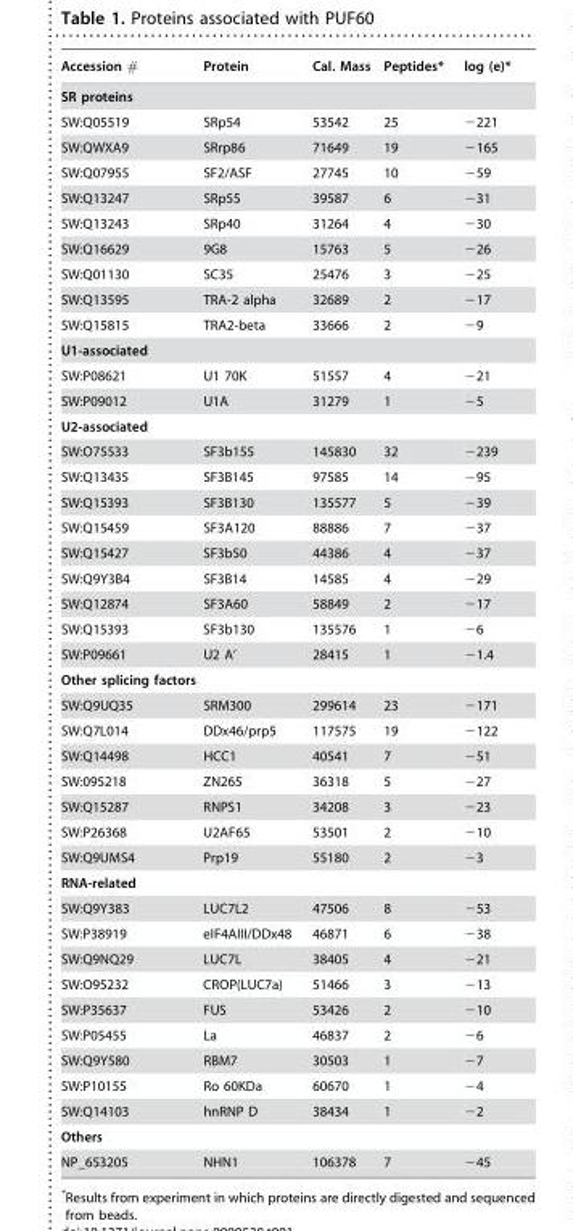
<table><thead><tr><td>Accession #</td><td>Protein</td><td>Cal. Mass</td><td>Peptides*</td><td>log (e)*</td></tr></thead><tbody><tr><td colspan="5">SR proteins</td></tr><tr><td>SW:Q05519</td><td>SRp54</td><td>53542</td><td>25</td><td>−221</td></tr><tr><td>SW:QWXA9</td><td>SRrp86</td><td>71649</td><td>19</td><td>−165</td></tr><tr><td>SW:Q07955</td><td>SF2/ASF</td><td>27745</td><td>10</td><td>−59</td></tr><tr><td>SW:Q13247</td><td>SRp55</td><td>39587</td><td>6</td><td>−31</td></tr><tr><td>SW:Q13243</td><td>SRp40</td><td>31264</td><td>4</td><td>−30</td></tr><tr><td>SW:Q16629</td><td>9G8</td><td>15763</td><td>5</td><td>−26</td></tr><tr><td>SW:Q01130</td><td>SC35</td><td>25476</td><td>3</td><td>−25</td></tr><tr><td>SW:Q13595</td><td>TRA-2 alpha</td><td>32689</td><td>2</td><td>−17</td></tr><tr><td>SW:Q15815</td><td>TRA2-beta</td><td>33666</td><td>2</td><td>−9</td></tr><tr><td colspan="5">U1-associated</td></tr><tr><td>SW:P08621</td><td>U1 70K</td><td>51557</td><td>4</td><td>−21</td></tr><tr><td>SW:P09012</td><td>U1A</td><td>31279</td><td>1</td><td>−5</td></tr><tr><td colspan="5">U2-associated</td></tr><tr><td>SW:O75533</td><td>SF3b155</td><td>145830</td><td>32</td><td>−239</td></tr><tr><td>SW:Q13435</td><td>SF3B145</td><td>97585</td><td>14</td><td>−95</td></tr><tr><td>SW:Q15393</td><td>SF3B130</td><td>135577</td><td>5</td><td>−39</td></tr><tr><td>SW:Q15459</td><td>SF3A120</td><td>88886</td><td>7</td><td>−37</td></tr><tr><td>SW:Q15427</td><td>SF3b50</td><td>44386</td><td>4</td><td>−37</td></tr><tr><td>SW:Q9Y3B4</td><td>SF3B14</td><td>14585</td><td>4</td><td>−29</td></tr><tr><td>SW:Q12874</td><td>SF3A60</td><td>58849</td><td>2</td><td>−17</td></tr><tr><td>SW:Q15393</td><td>SF3b130</td><td>135576</td><td>1</td><td>−6</td></tr><tr><td>SW:P09661</td><td>U2 A’</td><td>28415</td><td>1</td><td>−1.4</td></tr><tr><td colspan="5">Other splicing factors</td></tr><tr><td>SW:Q9UQ35</td><td>SRM300</td><td>299614</td><td>23</td><td>−171</td></tr><tr><td>SW:Q7L014</td><td>DDx46/prp5</td><td>117575</td><td>19</td><td>−122</td></tr><tr><td>SW:Q14498</td><td>HCC1</td><td>40541</td><td>7</td><td>−51</td></tr><tr><td>SW:095218</td><td>ZN265</td><td>36318</td><td>5</td><td>−27</td></tr><tr><td>SW:Q15287</td><td>RNPS1</td><td>34208</td><td>3</td><td>−23</td></tr><tr><td>SW:P26368</td><td>U2AF65</td><td>53501</td><td>2</td><td>−10</td></tr><tr><td>SW:Q9UMS4</td><td>Prp19</td><td>55180</td><td>2</td><td>−3</td></tr><tr><td colspan="5">RNA-related</td></tr><tr><td>SW:Q9Y383</td><td>LUC7L2</td><td>47506</td><td>8</td><td>−53</td></tr><tr><td>SW:P38919</td><td>eIF4AIII/DDx48</td><td>46871</td><td>6</td><td>−38</td></tr><tr><td>SW:Q9NQ29</td><td>LUC7L</td><td>38405</td><td>4</td><td>−21</td></tr><tr><td>SW:O95232</td><td>CROP(LUC7a)</td><td>51466</td><td>3</td><td>−13</td></tr><tr><td>SW:P35637</td><td>FUS</td><td>53426</td><td>2</td><td>−10</td></tr><tr><td>SW:P05455</td><td>La</td><td>46837</td><td>2</td><td>−6</td></tr><tr><td>SW:Q9Y580</td><td>RBM7</td><td>30503</td><td>1</td><td>−7</td></tr><tr><td>SW:P10155</td><td>Ro 60KDa</td><td>60670</td><td>1</td><td>−4</td></tr><tr><td>SW:Q14103</td><td>hnRNP D</td><td>38434</td><td>1</td><td>−2</td></tr><tr><td colspan="5">Others</td></tr><tr><td>NP_653205</td><td>NHN1</td><td>106378</td><td>7</td><td>−45</td></tr></tbody></table>